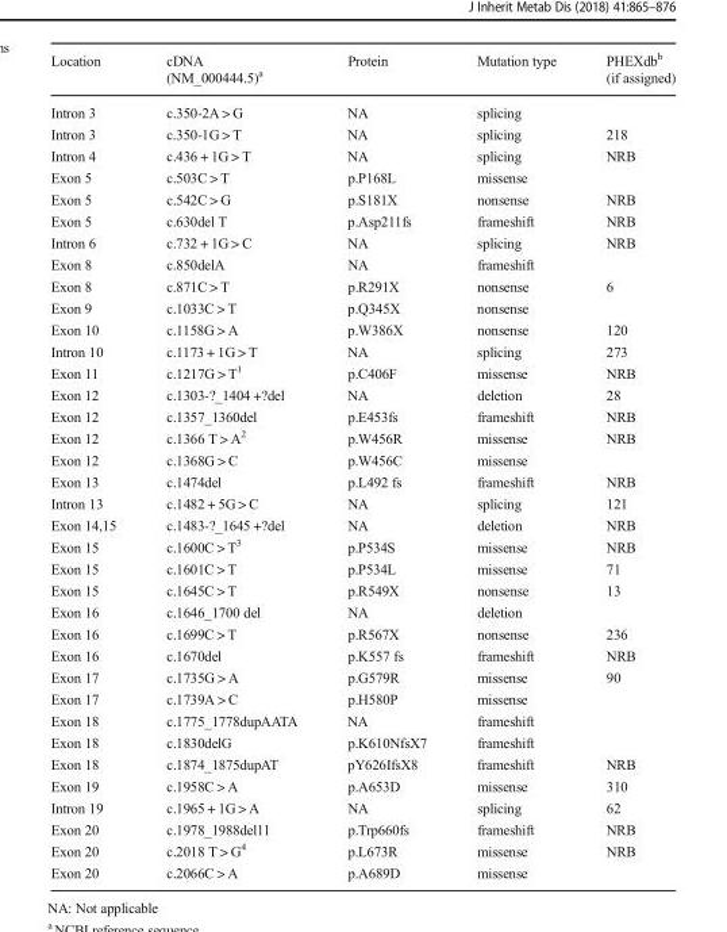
<table><thead><tr><td>Location</td><td>cDNA (NM_000444.5)<sup>a</sup></td><td>Protein</td><td>Mutation type</td><td>PHEXdb<sup>b</sup> (if assigned)</td></tr></thead><tbody><tr><td>Intron 3</td><td>c.350-2A &gt; G</td><td>NA</td><td>splicing</td><td></td></tr><tr><td>Intron 3</td><td>c.350-1G &gt; T</td><td>NA</td><td>splicing</td><td>218</td></tr><tr><td>Intron 4</td><td>c.436 + 1G &gt; T</td><td>NA</td><td>splicing</td><td>NRB</td></tr><tr><td>Exon 5</td><td>c.503C &gt; T</td><td>p.P168L</td><td>missense</td><td></td></tr><tr><td>Exon 5</td><td>c.542C &gt; G</td><td>p.S181X</td><td>nonsense</td><td>NRB</td></tr><tr><td>Exon 5</td><td>c.630del T</td><td>p.Asp211fs</td><td>frameshift</td><td>NRB</td></tr><tr><td>Intron 6</td><td>c.732 + 1G &gt; C</td><td>NA</td><td>splicing</td><td>NRB</td></tr><tr><td>Exon 8</td><td>c.850delA</td><td>NA</td><td>frameshift</td><td></td></tr><tr><td>Exon 8</td><td>c.871C &gt; T</td><td>p.R291X</td><td>nonsense</td><td>6</td></tr><tr><td>Exon 9</td><td>c.1033C &gt; T</td><td>p.Q345X</td><td>nonsense</td><td></td></tr><tr><td>Exon 10</td><td>c.1158G &gt; A</td><td>p.W386X</td><td>nonsense</td><td>120</td></tr><tr><td>Intron 10</td><td>c.1173 + 1G &gt; T</td><td>NA</td><td>splicing</td><td>273</td></tr><tr><td>Exon 11</td><td>c.1217G &gt; T<sup>1</sup></td><td>p.C406F</td><td>missense</td><td>NRB</td></tr><tr><td>Exon 12</td><td>c.1303-?_1404 +?del</td><td>NA</td><td>deletion</td><td>28</td></tr><tr><td>Exon 12</td><td>c.1357_1360del</td><td>p.E453fs</td><td>frameshift</td><td>NRB</td></tr><tr><td>Exon 12</td><td>c.1366 T &gt; A<sup>2</sup></td><td>p.W456R</td><td>missense</td><td>NRB</td></tr><tr><td>Exon 12</td><td>c.1368G &gt; C</td><td>p.W456C</td><td>missense</td><td></td></tr><tr><td>Exon 13</td><td>c.1474del</td><td>p.L492 fs</td><td>frameshift</td><td>NRB</td></tr><tr><td>Intron 13</td><td>c.1482 + 5G &gt; C</td><td>NA</td><td>splicing</td><td>121</td></tr><tr><td>Exon 14,15</td><td>c.1483-?_1645 +?del</td><td>NA</td><td>deletion</td><td>NRB</td></tr><tr><td>Exon 15</td><td>c.1600C &gt; T<sup>3</sup></td><td>p.P534S</td><td>missense</td><td>NRB</td></tr><tr><td>Exon 15</td><td>c.1601C &gt; T</td><td>p.P534L</td><td>missense</td><td>71</td></tr><tr><td>Exon 15</td><td>c.1645C &gt; T</td><td>p.R549X</td><td>nonsense</td><td>13</td></tr><tr><td>Exon 16</td><td>c.1646_1700 del</td><td>NA</td><td>deletion</td><td></td></tr><tr><td>Exon 16</td><td>c.1699C &gt; T</td><td>p.R567X</td><td>nonsense</td><td>236</td></tr><tr><td>Exon 16</td><td>c.1670del</td><td>p.K557 fs</td><td>frameshift</td><td>NRB</td></tr><tr><td>Exon 17</td><td>c.1735G &gt; A</td><td>p.G579R</td><td>missense</td><td>90</td></tr><tr><td>Exon 17</td><td>c.1739A &gt; C</td><td>p.H580P</td><td>missense</td><td></td></tr><tr><td>Exon 18</td><td>c.1775_1778dupAATA</td><td>NA</td><td>frameshift</td><td></td></tr><tr><td>Exon 18</td><td>c.1830delG</td><td>p.K610NfsX7</td><td>frameshift</td><td></td></tr><tr><td>Exon 18</td><td>c.1874_1875dupAT</td><td>pY626IfsX8</td><td>frameshift</td><td>NRB</td></tr><tr><td>Exon 19</td><td>c.1958C &gt; A</td><td>p.A653D</td><td>missense</td><td>310</td></tr><tr><td>Intron 19</td><td>c.1965 + 1G &gt; A</td><td>NA</td><td>splicing</td><td>62</td></tr><tr><td>Exon 20</td><td>c.1978_1988del11</td><td>p.Trp660fs</td><td>frameshift</td><td>NRB</td></tr><tr><td>Exon 20</td><td>c.2018 T &gt; G<sup>4</sup></td><td>p.L673R</td><td>missense</td><td>NRB</td></tr><tr><td>Exon 20</td><td>c.2066C &gt; A</td><td>p.A689D</td><td>missense</td><td></td></tr></tbody></table>